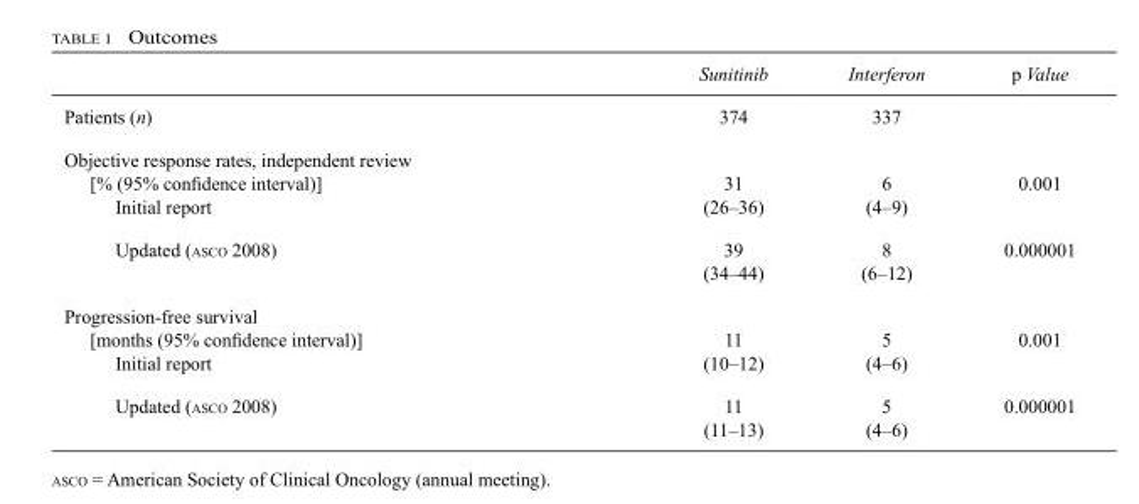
<table><thead><tr><td></td><td>Sunitinib</td><td>Interferon</td><td>p Value</td></tr></thead><tbody><tr><td>Patients (n)</td><td>374</td><td>337</td><td></td></tr><tr><td>objective response rates, independent review [% (95% confidence interval)] Initial report</td><td>31 (26–36)</td><td>6 (4–9)</td><td>0.001</td></tr><tr><td>Updated (asco 2008)</td><td>39 (34–44)</td><td>8 (6–12)</td><td>0.000001</td></tr><tr><td>Progression-free survival [months (95% confidence interval)] Initial report</td><td>11 (10–12)</td><td>5 (4–6)</td><td>0.001</td></tr><tr><td>Updated (asco 2008)</td><td>11 (11–13)</td><td>5 (4–6)</td><td>0.000001</td></tr></tbody></table>